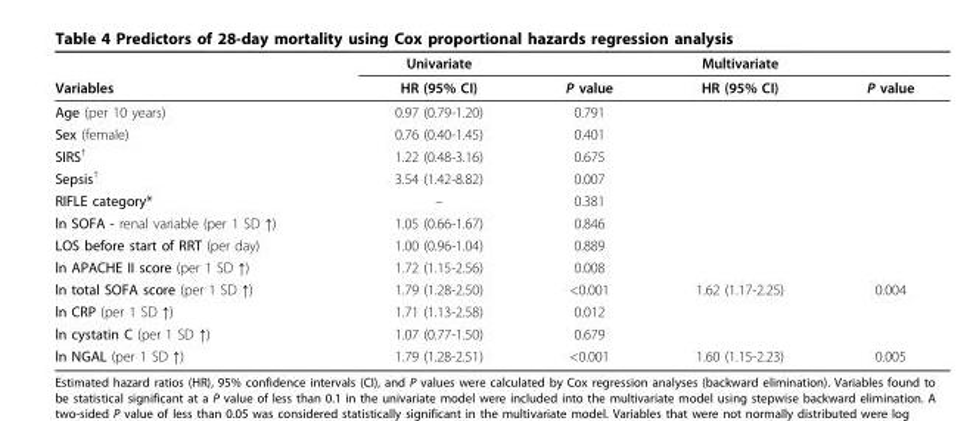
<table><thead><tr><td rowspan="2">Variables</td><td rowspan="2">Univariate HR (95% CI)</td><td rowspan="2">P value</td><td rowspan="2">Multivariate HR (95% CI)</td><td rowspan="2">P value</td></tr><tr></tr></thead><tbody><tr><td>Age (per 10 years)</td><td>0.97 (0.79-1.20)</td><td>0.791</td><td></td><td></td></tr><tr><td>Sex (female)</td><td>0.76 (0.40-1.45)</td><td>0.401</td><td></td><td></td></tr><tr><td>SIRS<sup>†</sup></td><td>1.22 (0.48-3.16)</td><td>0.675</td><td></td><td></td></tr><tr><td>Sepsis<sup>†</sup></td><td>3.54 (1.42-8.82)</td><td>0.007</td><td></td><td></td></tr><tr><td>RIFLE category*</td><td>–</td><td>0.381</td><td></td><td></td></tr><tr><td>ln SOFA - renal variable (per 1 SD ↑)</td><td>1.05 (0.66-1.67)</td><td>0.846</td><td></td><td></td></tr><tr><td>LOS before start of RRT (per day)</td><td>1.00 (0.96-1.04)</td><td>0.889</td><td></td><td></td></tr><tr><td>ln APACHE II score (per 1 SD ↑)</td><td>1.72 (1.15-2.56)</td><td>0.008</td><td></td><td></td></tr><tr><td>ln total SOFA score (per 1 SD ↑)</td><td>1.79 (1.28-2.50)</td><td>&lt;0.001</td><td>1.62 (1.17-2.25)</td><td>0.004</td></tr><tr><td>ln CRP (per 1 SD ↑)</td><td>1.71 (1.13-2.58)</td><td>0.012</td><td></td><td></td></tr><tr><td>ln cystatin C (per 1 SD ↑)</td><td>1.07 (0.77-1.50)</td><td>0.679</td><td></td><td></td></tr><tr><td>ln NGAL (per 1 SD ↑)</td><td>1.79 (1.28-2.51)</td><td>&lt;0.001</td><td>1.60 (1.15-2.23)</td><td>0.005</td></tr></tbody></table>